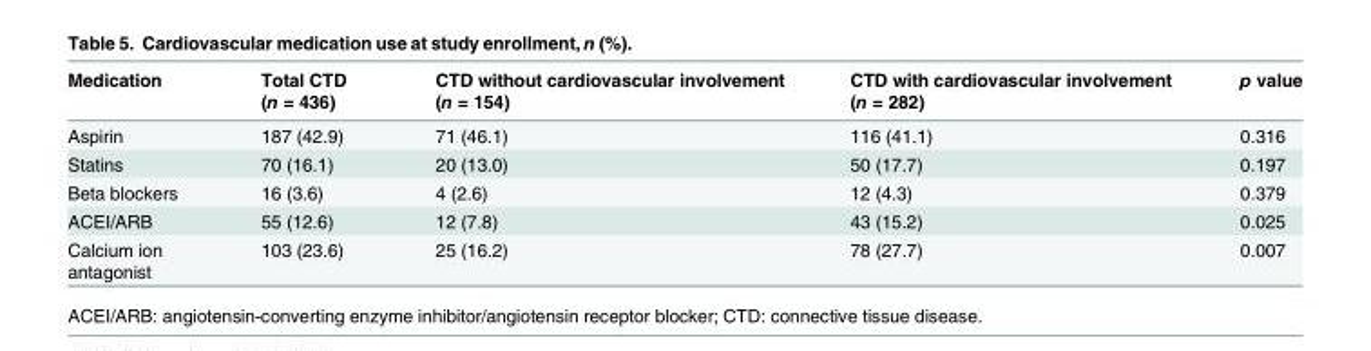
<table><thead><tr><td>Medication</td><td>Total CTD (n = 436)</td><td>CTD without cardiovascular involvement (n = 154)</td><td>CTD with cardiovascular involvement (n = 282)</td><td>p value</td></tr></thead><tbody><tr><td>Aspirin</td><td>187 (42.9)</td><td>71 (46.1)</td><td>116 (41.1)</td><td>0.316</td></tr><tr><td>Statins</td><td>70 (16.1)</td><td>20 (13.0)</td><td>50 (17.7)</td><td>0.197</td></tr><tr><td>Beta blockers</td><td>16 (3.6)</td><td>4 (2.6)</td><td>12 (4.3)</td><td>0.379</td></tr><tr><td>ACEI/ARB</td><td>55 (12.6)</td><td>12 (7.8)</td><td>43 (15.2)</td><td>0.025</td></tr><tr><td>Calcium ion antagonist</td><td>103 (23.6)</td><td>25 (16.2)</td><td>78 (27.7)</td><td>0.007</td></tr></tbody></table>